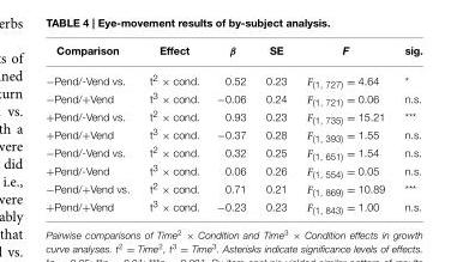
<table><thead><tr><td>Comparison</td><td>Effect</td><td>β</td><td>SE</td><td>F</td><td>sig.</td></tr></thead><tbody><tr><td>−Pend/-Vend vs.</td><td>t<sup>2</sup> × cond.</td><td>0.52</td><td>0.23</td><td>F<sub>(1, 727)</sub> = 4.64</td><td>*</td></tr><tr><td>−Pend/+Vend</td><td>t<sup>3</sup> × cond.</td><td>−0.06</td><td>0.24</td><td>F<sub>(1, 721)</sub> = 0.06</td><td>n.s.</td></tr><tr><td>+Pend/-Vend vs.</td><td>t<sup>2</sup> × cond.</td><td>0.93</td><td>0.23</td><td>F<sub>(1, 735)</sub> = 15.21</td><td>***</td></tr><tr><td>+Pend/+Vend</td><td>t<sup>3</sup> × cond.</td><td>−0.37</td><td>0.28</td><td>F<sub>(1, 393)</sub> = 1.55</td><td>n.s.</td></tr><tr><td>−Pend/-Vend vs.</td><td>t<sup>2</sup> × cond.</td><td>0.32</td><td>0.25</td><td>F<sub>(1, 651)</sub> = 1.54</td><td>n.s.</td></tr><tr><td>+Pend/-Vend</td><td>t<sup>3</sup> × cond.</td><td>0.06</td><td>0.26</td><td>F<sub>(1, 554)</sub> = 0.05</td><td>n.s.</td></tr><tr><td>−Pend/+Vend vs.</td><td>t<sup>2</sup> × cond.</td><td>0.71</td><td>0.21</td><td>F<sub>(1, 869)</sub> = 10.89</td><td>***</td></tr><tr><td>+Pend/+Vend</td><td>t<sup>3</sup> × cond.</td><td>−0.23</td><td>0.23</td><td>F<sub>(1, 843)</sub> = 1.00</td><td>n.s.</td></tr></tbody></table>